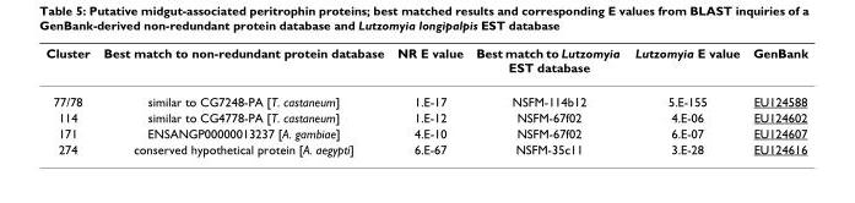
<table><thead><tr><td>Cluster</td><td>Best match to non-redundant protein database</td><td>NR E value</td><td>Best match to Lutzomyia EST database</td><td>Lutzomyia E value</td><td>GenBank</td></tr></thead><tbody><tr><td>77/78</td><td>similar to CG7248-PA [T. castaneum]</td><td>1.E-17</td><td>NSFM-114b12</td><td>5.E-155</td><td>EU124588</td></tr><tr><td>114</td><td>similar to CG4778-PA [T. castaneum]</td><td>1.E-12</td><td>NSFM-67f02</td><td>4.E-06</td><td>EU124602</td></tr><tr><td>171</td><td>ENSANGP00000013237 [A. gambiae]</td><td>4.E-10</td><td>NSFM-67f02</td><td>6.E-07</td><td>EU124607</td></tr><tr><td>274</td><td>conserved hypothetical protein [A. aegypti]</td><td>6.E-67</td><td>NSFM-35c11</td><td>3.E-28</td><td>EU124616</td></tr></tbody></table>